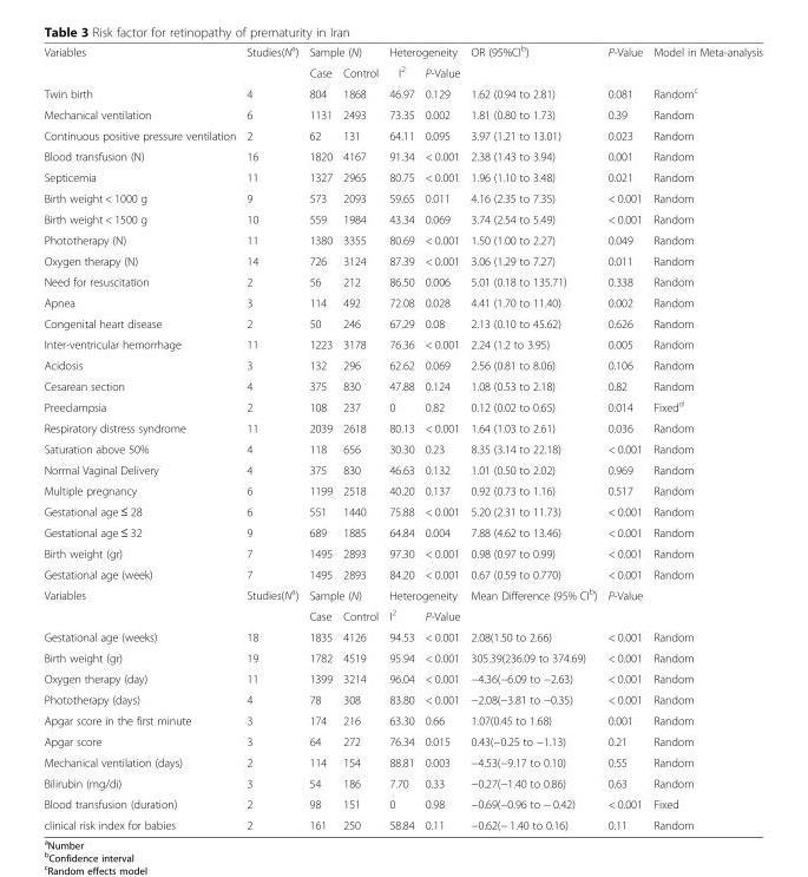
<table><tbody><tr><td rowspan="2">Variables</td><td rowspan="2">Studies(N<sup>a</sup>)</td><td colspan="2">Sample (N)</td><td colspan="2">Heterogeneity</td><td rowspan="2">OR (95%CI<sup>b</sup>)</td><td rowspan="2">P-Value</td><td rowspan="2">Model in Meta-analysis</td></tr><tr><td>Case</td><td>Control</td><td>I<sup>2</sup></td><td>P-Value</td></tr><tr><td>Twin birth</td><td>4</td><td>804</td><td>1868</td><td>46.97</td><td>0.129</td><td>1.62 (0.94 to 2.81)</td><td>0.081</td><td>Random<sup>c</sup></td></tr><tr><td>Mechanical ventilation</td><td>6</td><td>1131</td><td>2493</td><td>73.35</td><td>0.002</td><td>1.81 (0.80 to 1.73)</td><td>0.39</td><td>Random</td></tr><tr><td>Continuous positive pressure ventilation</td><td>2</td><td>62</td><td>131</td><td>64.11</td><td>0.095</td><td>3.97 (1.21 to 13.01)</td><td>0.023</td><td>Random</td></tr><tr><td>Blood transfusion (N)</td><td>16</td><td>1820</td><td>4167</td><td>91.34</td><td>&lt; 0.001</td><td>2.38 (1.43 to 3.94)</td><td>0.001</td><td>Random</td></tr><tr><td>Septicemia</td><td>11</td><td>1327</td><td>2965</td><td>80.75</td><td>&lt; 0.001</td><td>1.96 (1.10 to 3.48)</td><td>0.021</td><td>Random</td></tr><tr><td>Birth weight &lt; 1000 g</td><td>9</td><td>573</td><td>2093</td><td>59.65</td><td>0.011</td><td>4.16 (2.35 to 7.35)</td><td>&lt; 0.001</td><td>Random</td></tr><tr><td>Birth weight &lt; 1500 g</td><td>10</td><td>559</td><td>1984</td><td>43.34</td><td>0.069</td><td>3.74 (2.54 to 5.49)</td><td>&lt; 0.001</td><td>Random</td></tr><tr><td>Phototherapy (N)</td><td>11</td><td>1380</td><td>3355</td><td>80.69</td><td>&lt; 0.001</td><td>1.50 (1.00 to 2.27)</td><td>0.049</td><td>Random</td></tr><tr><td>Oxygen therapy (N)</td><td>14</td><td>726</td><td>3124</td><td>87.39</td><td>&lt; 0.001</td><td>3.06 (1.29 to 7.27)</td><td>0.011</td><td>Random</td></tr><tr><td>Need for resuscitation</td><td>2</td><td>56</td><td>212</td><td>86.50</td><td>0.006</td><td>5.01 (0.18 to 135.71)</td><td>0.338</td><td>Random</td></tr><tr><td>Apnea</td><td>3</td><td>114</td><td>492</td><td>72.08</td><td>0.028</td><td>4.41 (1.70 to 11.40)</td><td>0.002</td><td>Random</td></tr><tr><td>Congenital heart disease</td><td>2</td><td>50</td><td>246</td><td>67.29</td><td>0.08</td><td>2.13 (0.10 to 45.62)</td><td>0.626</td><td>Random</td></tr><tr><td>Inter-ventricular hemorrhage</td><td>11</td><td>1223</td><td>3178</td><td>76.36</td><td>&lt; 0.001</td><td>2.24 (1.2 to 3.95)</td><td>0.005</td><td>Random</td></tr><tr><td>Acidosis</td><td>3</td><td>132</td><td>296</td><td>62.62</td><td>0.069</td><td>2.56 (0.81 to 8.06)</td><td>0.106</td><td>Random</td></tr><tr><td>Cesarean section</td><td>4</td><td>375</td><td>830</td><td>47.88</td><td>0.124</td><td>1.08 (0.53 to 2.18)</td><td>0.82</td><td>Random</td></tr><tr><td>Preeclampsia</td><td>2</td><td>108</td><td>237</td><td>0</td><td>0.82</td><td>0.12 (0.02 to 0.65)</td><td>0.014</td><td>Fixed<sup>d</sup></td></tr><tr><td>Respiratory distress syndrome</td><td>11</td><td>2039</td><td>2618</td><td>80.13</td><td>&lt; 0.001</td><td>1.64 (1.03 to 2.61)</td><td>0.036</td><td>Random</td></tr><tr><td>Saturation above 50%</td><td>4</td><td>118</td><td>656</td><td>30.30</td><td>0.23</td><td>8.35 (3.14 to 22.18)</td><td>&lt; 0.001</td><td>Random</td></tr><tr><td>Normal Vaginal Delivery</td><td>4</td><td>375</td><td>830</td><td>46.63</td><td>0.132</td><td>1.01 (0.50 to 2.02)</td><td>0.969</td><td>Random</td></tr><tr><td>Multiple pregnancy</td><td>6</td><td>1199</td><td>2518</td><td>40.20</td><td>0.137</td><td>0.92 (0.73 to 1.16)</td><td>0.517</td><td>Random</td></tr><tr><td>Gestational age ≤ 28</td><td>6</td><td>551</td><td>1440</td><td>75.88</td><td>&lt; 0.001</td><td>5.20 (2.31 to 11.73)</td><td>&lt; 0.001</td><td>Random</td></tr><tr><td>Gestational age ≤ 32</td><td>9</td><td>689</td><td>1885</td><td>64.84</td><td>0.004</td><td>7.88 (4.62 to 13.46)</td><td>&lt; 0.001</td><td>Random</td></tr><tr><td>Birth weight (gr)</td><td>7</td><td>1495</td><td>2893</td><td>97.30</td><td>&lt; 0.001</td><td>0.98 (0.97 to 0.99)</td><td>&lt; 0.001</td><td>Random</td></tr><tr><td>Gestational age (week)</td><td>7</td><td>1495</td><td>2893</td><td>84.20</td><td>&lt; 0.001</td><td>0.67 (0.59 to 0.770)</td><td>&lt; 0.001</td><td>Random</td></tr><tr><td rowspan="2">Variables</td><td rowspan="2">Studies(N<sup>a</sup>)</td><td colspan="2">Sample (N)</td><td colspan="2">Heterogeneity</td><td rowspan="2">Mean Difference (95% CI<sup>b</sup>)</td><td rowspan="2">P-Value</td><td rowspan="2"></td></tr><tr><td>Case</td><td>Control</td><td>I<sup>2</sup></td><td>P-Value</td></tr><tr><td>Gestational age (weeks)</td><td>18</td><td>1835</td><td>4126</td><td>94.53</td><td>&lt; 0.001</td><td>2.08(1.50 to 2.66)</td><td>&lt; 0.001</td><td>Random</td></tr><tr><td>Birth weight (gr)</td><td>19</td><td>1782</td><td>4519</td><td>95.94</td><td>&lt; 0.001</td><td>305.39(236.09 to 374.69)</td><td>&lt; 0.001</td><td>Random</td></tr><tr><td>Oxygen therapy (day)</td><td>11</td><td>1399</td><td>3214</td><td>96.04</td><td>&lt; 0.001</td><td>−4.36(−6.09 to −2.63)</td><td>&lt; 0.001</td><td>Random</td></tr><tr><td>Phototherapy (days)</td><td>4</td><td>78</td><td>308</td><td>83.80</td><td>&lt; 0.001</td><td>−2.08(−3.81 to −0.35)</td><td>&lt; 0.001</td><td>Random</td></tr><tr><td>Apgar score in the first minute</td><td>3</td><td>174</td><td>216</td><td>63.30</td><td>0.66</td><td>1.07(0.45 to 1.68)</td><td>0.001</td><td>Random</td></tr><tr><td>Apgar score</td><td>3</td><td>64</td><td>272</td><td>76.34</td><td>0.015</td><td>0.43(−0.25 to −1.13)</td><td>0.21</td><td>Random</td></tr><tr><td>Mechanical ventilation (days)</td><td>2</td><td>114</td><td>154</td><td>88.81</td><td>0.003</td><td>−4.53(−9.17 to 0.10)</td><td>0.55</td><td>Random</td></tr><tr><td>Bilirubin (mg/di)</td><td>3</td><td>54</td><td>186</td><td>7.70</td><td>0.33</td><td>−0.27(−1.40 to 0.86)</td><td>0.63</td><td>Random</td></tr><tr><td>Blood transfusion (duration)</td><td>2</td><td>98</td><td>151</td><td>0</td><td>0.98</td><td>−0.69(−0.96 to − 0.42)</td><td>&lt; 0.001</td><td>Fixed</td></tr><tr><td>clinical risk index for babies</td><td>2</td><td>161</td><td>250</td><td>58.84</td><td>0.11</td><td>−0.62(− 1.40 to 0.16)</td><td>0.11</td><td>Random</td></tr></tbody></table>